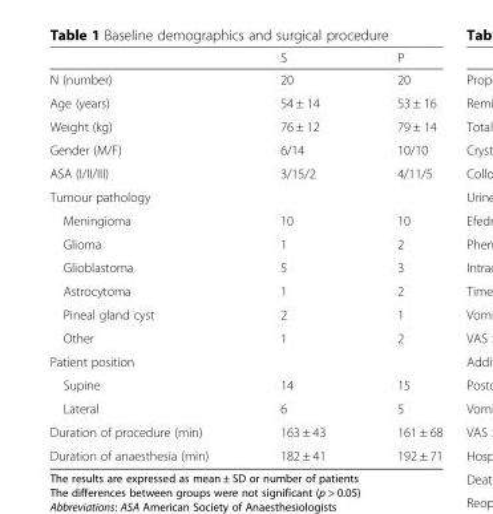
<table><thead><tr><td></td><td>S</td><td>P</td></tr></thead><tbody><tr><td>N (number)</td><td>20</td><td>20</td></tr><tr><td>Age (years)</td><td>54 ± 14</td><td>53 ± 16</td></tr><tr><td>Weight (kg)</td><td>76 ± 12</td><td>79 ± 14</td></tr><tr><td>Gender (M/F)</td><td>6/14</td><td>10/10</td></tr><tr><td>ASA (I/II/III)</td><td>3/15/2</td><td>4/11/5</td></tr><tr><td colspan="3">Tumour pathology</td></tr><tr><td>Meningioma</td><td>10</td><td>10</td></tr><tr><td>Glioma</td><td>1</td><td>2</td></tr><tr><td>Glioblastoma</td><td>5</td><td>3</td></tr><tr><td>Astrocytoma</td><td>1</td><td>2</td></tr><tr><td>Pineal gland cyst</td><td>2</td><td>1</td></tr><tr><td>Other</td><td>1</td><td>2</td></tr><tr><td colspan="3">Patient position</td></tr><tr><td>Supine</td><td>14</td><td>15</td></tr><tr><td>Lateral</td><td>6</td><td>5</td></tr><tr><td>Duration of procedure (min)</td><td>163 ± 43</td><td>161 ± 68</td></tr><tr><td>Duration of anaesthesia (min)</td><td>182 ± 41</td><td>192 ± 71</td></tr></tbody></table>